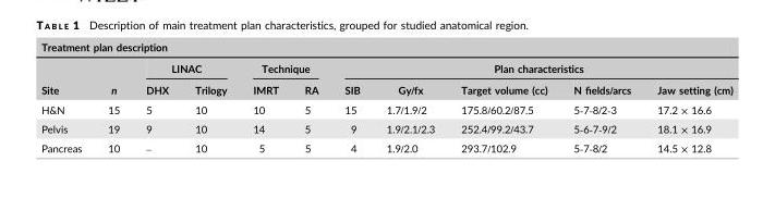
<table><thead><tr><td colspan="11">Treatment plan description</td></tr><tr><td rowspan="2">Site</td><td rowspan="2">n</td><td colspan="2">LINAC</td><td colspan="2">Technique</td><td colspan="5">Plan characteristics</td></tr><tr><td>DHX</td><td>Trilogy</td><td>IMRT</td><td>RA</td><td>SIB</td><td>Gy/fx</td><td>Target volume (cc)</td><td>N fields/arcs</td><td>Jaw setting (cm)</td></tr></thead><tbody><tr><td>H&amp;N</td><td>15</td><td>5</td><td>10</td><td>10</td><td>5</td><td>15</td><td>1.7/1.9/2</td><td>175.8/60.2/87.5</td><td>5‐7‐8/2‐3</td><td>17.2 × 16.6</td></tr><tr><td>Pelvis</td><td>19</td><td>9</td><td>10</td><td>14</td><td>5</td><td>9</td><td>1.9/2.1/2.3</td><td>252.4/99.2/43.7</td><td>5‐6‐7‐9/2</td><td>18.1 × 16.9</td></tr><tr><td>Pancreas</td><td>10</td><td>–</td><td>10</td><td>5</td><td>5</td><td>4</td><td>1.9/2.0</td><td>293.7/102.9</td><td>5‐7‐8/2</td><td>14.5 × 12.8</td></tr></tbody></table>